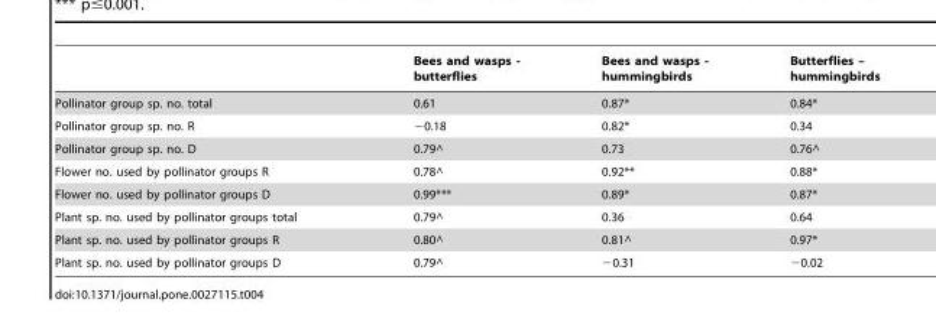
<table><thead><tr><td></td><td>Bees and wasps - butterflies</td><td>Bees and wasps - hummingbirds</td><td>Butterflies – hummingbirds</td></tr></thead><tbody><tr><td>Pollinator group sp. no. total</td><td>0.61</td><td>0.87*</td><td>0.84*</td></tr><tr><td>Pollinator group sp. no. R</td><td>−0.18</td><td>0.82*</td><td>0.34</td></tr><tr><td>Pollinator group sp. no. D</td><td>0.79^</td><td>0.73</td><td>0.76^</td></tr><tr><td>Flower no. used by pollinator groups R</td><td>0.78^</td><td>0.92**</td><td>0.88*</td></tr><tr><td>Flower no. used by pollinator groups D</td><td>0.99***</td><td>0.89*</td><td>0.87*</td></tr><tr><td>Plant sp. no. used by pollinator groups total</td><td>0.79^</td><td>0.36</td><td>0.64</td></tr><tr><td>Plant sp. no. used by pollinator groups R</td><td>0.80^</td><td>0.81^</td><td>0.97*</td></tr><tr><td>Plant sp. no. used by pollinator groups D</td><td>0.79^</td><td>−0.31</td><td>−0.02</td></tr></tbody></table>